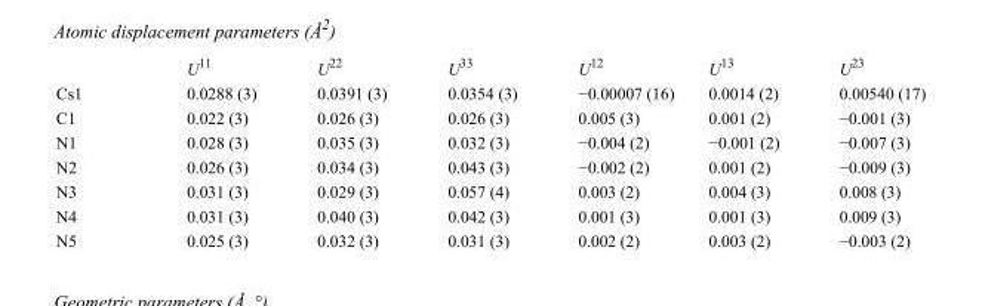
<table><thead><tr><td></td><td>U<sup>11</sup></td><td>U<sup>22</sup></td><td>U<sup>33</sup></td><td>U<sup>12</sup></td><td>U<sup>13</sup></td><td>U<sup>23</sup></td></tr></thead><tbody><tr><td>Cs1</td><td>0.0288 (3)</td><td>0.0391 (3)</td><td>0.0354 (3)</td><td>−0.00007 (16)</td><td>0.0014 (2)</td><td>0.00540 (17)</td></tr><tr><td>C1</td><td>0.022 (3)</td><td>0.026 (3)</td><td>0.026 (3)</td><td>0.005 (3)</td><td>0.001 (2)</td><td>−0.001 (3)</td></tr><tr><td>N1</td><td>0.028 (3)</td><td>0.035 (3)</td><td>0.032 (3)</td><td>−0.004 (2)</td><td>−0.001 (2)</td><td>−0.007 (3)</td></tr><tr><td>N2</td><td>0.026 (3)</td><td>0.034 (3)</td><td>0.043 (3)</td><td>−0.002 (2)</td><td>0.001 (2)</td><td>−0.009 (3)</td></tr><tr><td>N3</td><td>0.031 (3)</td><td>0.029 (3)</td><td>0.057 (4)</td><td>0.003 (2)</td><td>0.004 (3)</td><td>0.008 (3)</td></tr><tr><td>N4</td><td>0.031 (3)</td><td>0.040 (3)</td><td>0.042 (3)</td><td>0.001 (3)</td><td>0.001 (3)</td><td>0.009 (3)</td></tr><tr><td>N5</td><td>0.025 (3)</td><td>0.032 (3)</td><td>0.031 (3)</td><td>0.002 (2)</td><td>0.003 (2)</td><td>−0.003 (2)</td></tr></tbody></table>